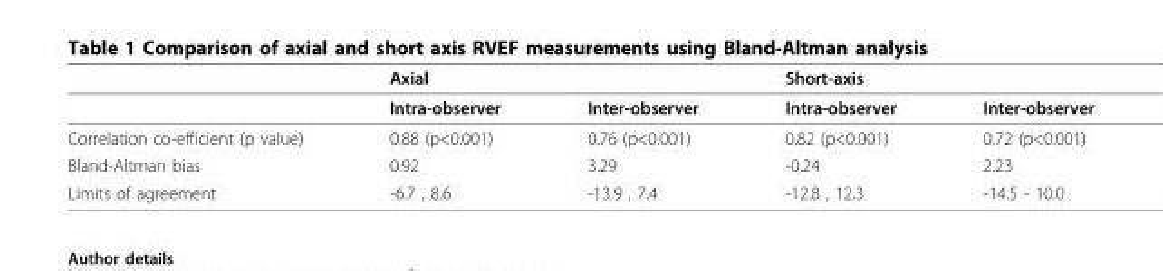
<table><thead><tr><td></td><td>Axial</td><td></td><td>Short-axis</td><td></td></tr></thead><tbody><tr><td></td><td>Intra-observer</td><td>Inter-observer</td><td>Intra-observer</td><td>Inter-observer</td></tr><tr><td>Correlation co-efficient (p value)</td><td>0.88 (p&lt;0.001)</td><td>0.76 (p&lt;0.001)</td><td>0.82 (p&lt;0.001)</td><td>0.72 (p&lt;0.001)</td></tr><tr><td>Bland-Altman bias</td><td>0.92</td><td>3.29</td><td>-0.24</td><td>2.23</td></tr><tr><td>Limits of agreement</td><td>-6.7 , 8.6</td><td>-13.9 , 7.4</td><td>-12.8 , 12.3</td><td>-14.5 - 10.0</td></tr></tbody></table>